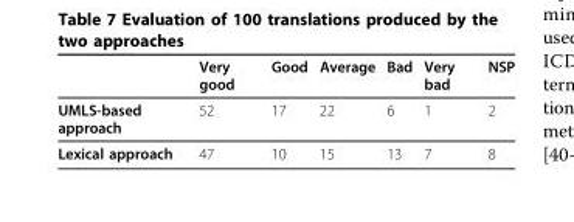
<table><thead><tr><td></td><td>Very good</td><td>Good</td><td>Average</td><td>Bad</td><td>Very bad</td><td>NSP</td></tr></thead><tbody><tr><td>UMLS-based approach</td><td>52</td><td>17</td><td>22</td><td>6</td><td>1</td><td>2</td></tr><tr><td>Lexical approach</td><td>47</td><td>10</td><td>15</td><td>13</td><td>7</td><td>8</td></tr></tbody></table>